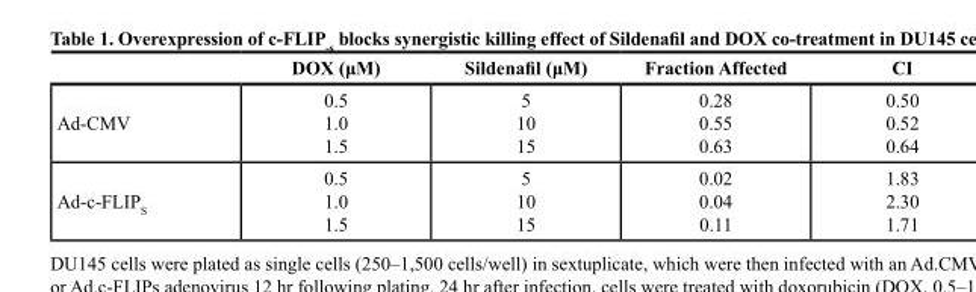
<table><thead><tr><td></td><td>DOX (μM)</td><td>Sildenafil (μM)</td><td>Fraction Affected</td><td>CI</td></tr></thead><tbody><tr><td>Ad-CMV</td><td>0.5 1.0 1.5</td><td>5 10 15</td><td>0.28 0.55 0.63</td><td>0.50 0.52 0.64</td></tr><tr><td>Ad-c-FLIP<sub>S</sub></td><td>0.5 1.0 1.5</td><td>5 10 15</td><td>0.02 0.04 0.11</td><td>1.83 2.30 1.71</td></tr></tbody></table>